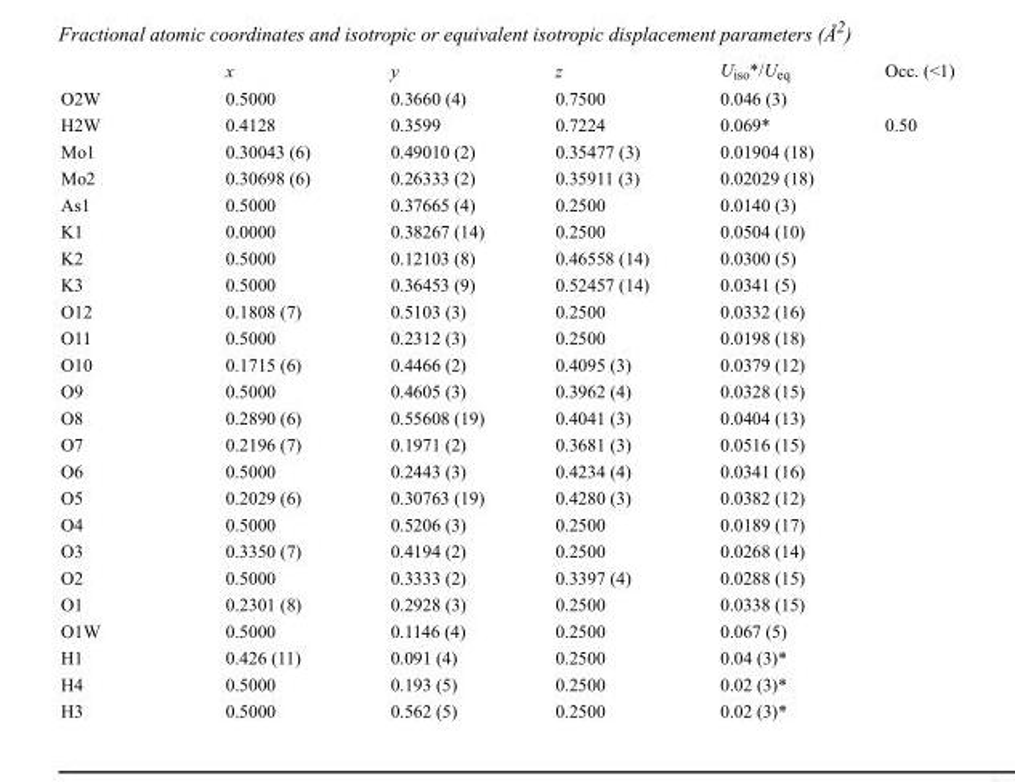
<table><thead><tr><td></td><td>x</td><td>y</td><td>z</td><td>U<sub>iso</sub>*/U<sub>eq</sub></td><td>Occ. (&lt;1)</td></tr></thead><tbody><tr><td>O2W</td><td>0.5000</td><td>0.3660 (4)</td><td>0.7500</td><td>0.046 (3)</td><td></td></tr><tr><td>H2W</td><td>0.4128</td><td>0.3599</td><td>0.7224</td><td>0.069*</td><td>0.50</td></tr><tr><td>Mo1</td><td>0.30043 (6)</td><td>0.49010 (2)</td><td>0.35477 (3)</td><td>0.01904 (18)</td><td></td></tr><tr><td>Mo2</td><td>0.30698 (6)</td><td>0.26333 (2)</td><td>0.35911 (3)</td><td>0.02029 (18)</td><td></td></tr><tr><td>As1</td><td>0.5000</td><td>0.37665 (4)</td><td>0.2500</td><td>0.0140 (3)</td><td></td></tr><tr><td>K1</td><td>0.0000</td><td>0.38267 (14)</td><td>0.2500</td><td>0.0504 (10)</td><td></td></tr><tr><td>K2</td><td>0.5000</td><td>0.12103 (8)</td><td>0.46558 (14)</td><td>0.0300 (5)</td><td></td></tr><tr><td>K3</td><td>0.5000</td><td>0.36453 (9)</td><td>0.52457 (14)</td><td>0.0341 (5)</td><td></td></tr><tr><td>O12</td><td>0.1808 (7)</td><td>0.5103 (3)</td><td>0.2500</td><td>0.0332 (16)</td><td></td></tr><tr><td>O11</td><td>0.5000</td><td>0.2312 (3)</td><td>0.2500</td><td>0.0198 (18)</td><td></td></tr><tr><td>O10</td><td>0.1715 (6)</td><td>0.4466 (2)</td><td>0.4095 (3)</td><td>0.0379 (12)</td><td></td></tr><tr><td>O9</td><td>0.5000</td><td>0.4605 (3)</td><td>0.3962 (4)</td><td>0.0328 (15)</td><td></td></tr><tr><td>O8</td><td>0.2890 (6)</td><td>0.55608 (19)</td><td>0.4041 (3)</td><td>0.0404 (13)</td><td></td></tr><tr><td>O7</td><td>0.2196 (7)</td><td>0.1971 (2)</td><td>0.3681 (3)</td><td>0.0516 (15)</td><td></td></tr><tr><td>O6</td><td>0.5000</td><td>0.2443 (3)</td><td>0.4234 (4)</td><td>0.0341 (16)</td><td></td></tr><tr><td>O5</td><td>0.2029 (6)</td><td>0.30763 (19)</td><td>0.4280 (3)</td><td>0.0382 (12)</td><td></td></tr><tr><td>O4</td><td>0.5000</td><td>0.5206 (3)</td><td>0.2500</td><td>0.0189 (17)</td><td></td></tr><tr><td>O3</td><td>0.3350 (7)</td><td>0.4194 (2)</td><td>0.2500</td><td>0.0268 (14)</td><td></td></tr><tr><td>O2</td><td>0.5000</td><td>0.3333 (2)</td><td>0.3397 (4)</td><td>0.0288 (15)</td><td></td></tr><tr><td>O1</td><td>0.2301 (8)</td><td>0.2928 (3)</td><td>0.2500</td><td>0.0338 (15)</td><td></td></tr><tr><td>O1W</td><td>0.5000</td><td>0.1146 (4)</td><td>0.2500</td><td>0.067 (5)</td><td></td></tr><tr><td>H1</td><td>0.426 (11)</td><td>0.091 (4)</td><td>0.2500</td><td>0.04 (3)*</td><td></td></tr><tr><td>H4</td><td>0.5000</td><td>0.193 (5)</td><td>0.2500</td><td>0.02 (3)*</td><td></td></tr><tr><td>H3</td><td>0.5000</td><td>0.562 (5)</td><td>0.2500</td><td>0.02 (3)*</td><td></td></tr></tbody></table>